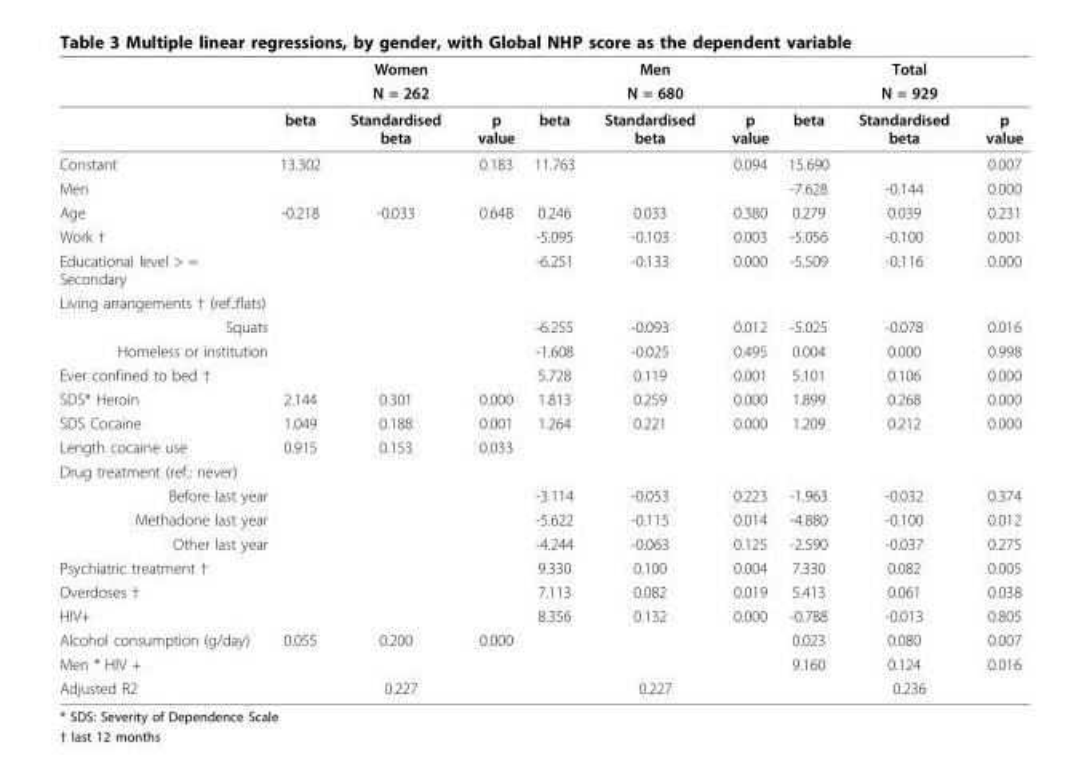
<table><thead><tr><td rowspan="3"></td><td rowspan="2" colspan="3">Women N = 262</td><td rowspan="2" colspan="3">Men N = 680</td><td rowspan="2" colspan="3">Total N = 929</td></tr><tr></tr><tr><td>beta</td><td>Standardised beta</td><td>p value</td><td>beta</td><td>Standardised beta</td><td>p value</td><td>beta</td><td>Standardised beta</td><td>p value</td></tr></thead><tbody><tr><td>Constant</td><td>13.302</td><td></td><td>0.183</td><td>11.763</td><td></td><td>0.094</td><td>15.690</td><td></td><td>0.007</td></tr><tr><td>Men</td><td></td><td></td><td></td><td></td><td></td><td></td><td>-7.628</td><td>-0.144</td><td>0.000</td></tr><tr><td>Age</td><td>-0.218</td><td>-0.033</td><td>0.648</td><td>0.246</td><td>0.033</td><td>0.380</td><td>0.279</td><td>0.039</td><td>0.231</td></tr><tr><td>Work †</td><td></td><td></td><td></td><td>-5.095</td><td>-0.103</td><td>0.003</td><td>-5.056</td><td>-0.100</td><td>0.001</td></tr><tr><td>Educational level &gt; = Secondary</td><td></td><td></td><td></td><td>-6.251</td><td>-0.133</td><td>0.000</td><td>-5.509</td><td>-0.116</td><td>0.000</td></tr><tr><td colspan="10">Living arrangements † (ref.:flats)</td></tr><tr><td>Squats</td><td></td><td></td><td></td><td>-6.255</td><td>-0.093</td><td>0.012</td><td>-5.025</td><td>-0.078</td><td>0.016</td></tr><tr><td>Homeless or institution</td><td></td><td></td><td></td><td>-1.608</td><td>-0.025</td><td>0.495</td><td>0.004</td><td>0.000</td><td>0.998</td></tr><tr><td>Ever confined to bed †</td><td></td><td></td><td></td><td>5.728</td><td>0.119</td><td>0.001</td><td>5.101</td><td>0.106</td><td>0.000</td></tr><tr><td>SDS* Heroin</td><td>2.144</td><td>0.301</td><td>0.000</td><td>1.813</td><td>0.259</td><td>0.000</td><td>1.899</td><td>0.268</td><td>0.000</td></tr><tr><td>SDS Cocaine</td><td>1.049</td><td>0.188</td><td>0.001</td><td>1.264</td><td>0.221</td><td>0.000</td><td>1.209</td><td>0.212</td><td>0.000</td></tr><tr><td>Length cocaine use</td><td>0.915</td><td>0.153</td><td>0.033</td><td></td><td></td><td></td><td></td><td></td><td></td></tr><tr><td colspan="10">Drug treatment (ref.: never)</td></tr><tr><td>Before last year</td><td></td><td></td><td></td><td>-3.114</td><td>-0.053</td><td>0.223</td><td>-1.963</td><td>-0.032</td><td>0.374</td></tr><tr><td>Methadone last year</td><td></td><td></td><td></td><td>-5.622</td><td>-0.115</td><td>0.014</td><td>-4.880</td><td>-0.100</td><td>0.012</td></tr><tr><td>Other last year</td><td></td><td></td><td></td><td>-4.244</td><td>-0.063</td><td>0.125</td><td>-2.590</td><td>-0.037</td><td>0.275</td></tr><tr><td>Psychiatric treatment †</td><td></td><td></td><td></td><td>9.330</td><td>0.100</td><td>0.004</td><td>7.330</td><td>0.082</td><td>0.005</td></tr><tr><td>Overdoses †</td><td></td><td></td><td></td><td>7.113</td><td>0.082</td><td>0.019</td><td>5.413</td><td>0.061</td><td>0.038</td></tr><tr><td>HIV+</td><td></td><td></td><td></td><td>8.356</td><td>0.132</td><td>0.000</td><td>-0.788</td><td>-0.013</td><td>0.805</td></tr><tr><td>Alcohol consumption (g/day)</td><td>0.055</td><td>0.200</td><td>0.000</td><td></td><td></td><td></td><td>0.023</td><td>0.080</td><td>0.007</td></tr><tr><td>Men * HIV +</td><td></td><td></td><td></td><td></td><td></td><td></td><td>9.160</td><td>0.124</td><td>0.016</td></tr><tr><td>Adjusted R2</td><td colspan="3">0.227</td><td colspan="3">0.227</td><td colspan="3">0.236</td></tr></tbody></table>